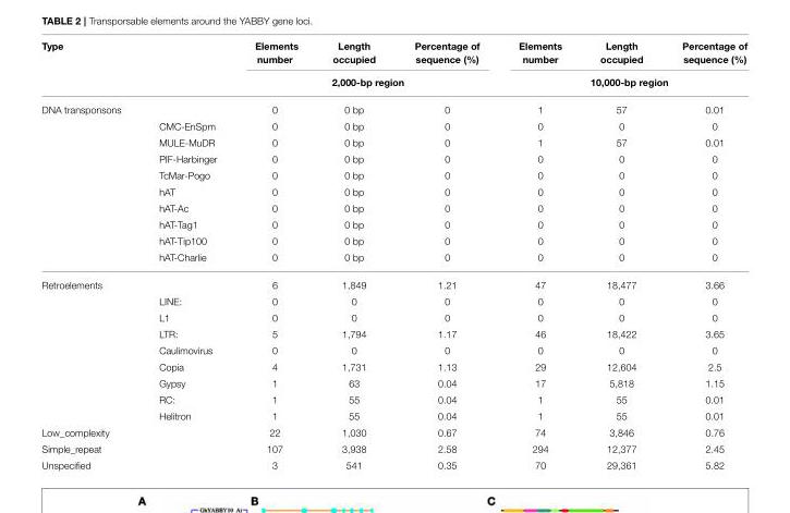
<table><thead><tr><td rowspan="2">Type</td><td rowspan="2"></td><td>Elements number</td><td>Length occupied</td><td>Percentage of sequence (%)</td><td>Elements number</td><td>Length occupied</td><td>Percentage of sequence (%)</td></tr><tr><td colspan="3">2,000-bp region</td><td colspan="3">10,000-bp region</td></tr></thead><tbody><tr><td rowspan="10">DNA transponsons</td><td></td><td>0</td><td>0 bp</td><td>0</td><td>1</td><td>57</td><td>0.01</td></tr><tr><td>CMC-EnSpm</td><td>0</td><td>0 bp</td><td>0</td><td>0</td><td>0</td><td>0</td></tr><tr><td>MULE-MuDR</td><td>0</td><td>0 bp</td><td>0</td><td>1</td><td>57</td><td>0.01</td></tr><tr><td>PIF-Harbinger</td><td>0</td><td>0 bp</td><td>0</td><td>0</td><td>0</td><td>0</td></tr><tr><td>TcMar-Pogo</td><td>0</td><td>0 bp</td><td>0</td><td>0</td><td>0</td><td>0</td></tr><tr><td>hAT</td><td>0</td><td>0 bp</td><td>0</td><td>0</td><td>0</td><td>0</td></tr><tr><td>hAT-Ac</td><td>0</td><td>0 bp</td><td>0</td><td>0</td><td>0</td><td>0</td></tr><tr><td>hAT-Tag1</td><td>0</td><td>0 bp</td><td>0</td><td>0</td><td>0</td><td>0</td></tr><tr><td>hAT-Tip100</td><td>0</td><td>0 bp</td><td>0</td><td>0</td><td>0</td><td>0</td></tr><tr><td>hAT-Charlie</td><td>0</td><td>0 bp</td><td>0</td><td>0</td><td>0</td><td>0</td></tr><tr><td rowspan="9">Retroelements</td><td></td><td>6</td><td>1,849</td><td>1.21</td><td>47</td><td>18,477</td><td>3.66</td></tr><tr><td>LINE:</td><td>0</td><td>0</td><td>0</td><td>0</td><td>0</td><td>0</td></tr><tr><td>L1</td><td>0</td><td>0</td><td>0</td><td>0</td><td>0</td><td>0</td></tr><tr><td>LTR:</td><td>5</td><td>1,794</td><td>1.17</td><td>46</td><td>18,422</td><td>3.65</td></tr><tr><td>Caulimovirus</td><td>0</td><td>0</td><td>0</td><td>0</td><td>0</td><td>0</td></tr><tr><td>Copia</td><td>4</td><td>1,731</td><td>1.13</td><td>29</td><td>12,604</td><td>2.5</td></tr><tr><td>Gypsy</td><td>1</td><td>63</td><td>0.04</td><td>17</td><td>5,818</td><td>1.15</td></tr><tr><td>RC:</td><td>1</td><td>55</td><td>0.04</td><td>1</td><td>55</td><td>0.01</td></tr><tr><td>Helitron</td><td>1</td><td>55</td><td>0.04</td><td>1</td><td>55</td><td>0.01</td></tr><tr><td>Low_complexity</td><td></td><td>22</td><td>1,030</td><td>0.67</td><td>74</td><td>3,846</td><td>0.76</td></tr><tr><td>Simple_repeat</td><td></td><td>107</td><td>3,938</td><td>2.58</td><td>294</td><td>12,377</td><td>2.45</td></tr><tr><td>Unspecified</td><td></td><td>3</td><td>541</td><td>0.35</td><td>70</td><td>29,361</td><td>5.82</td></tr></tbody></table>